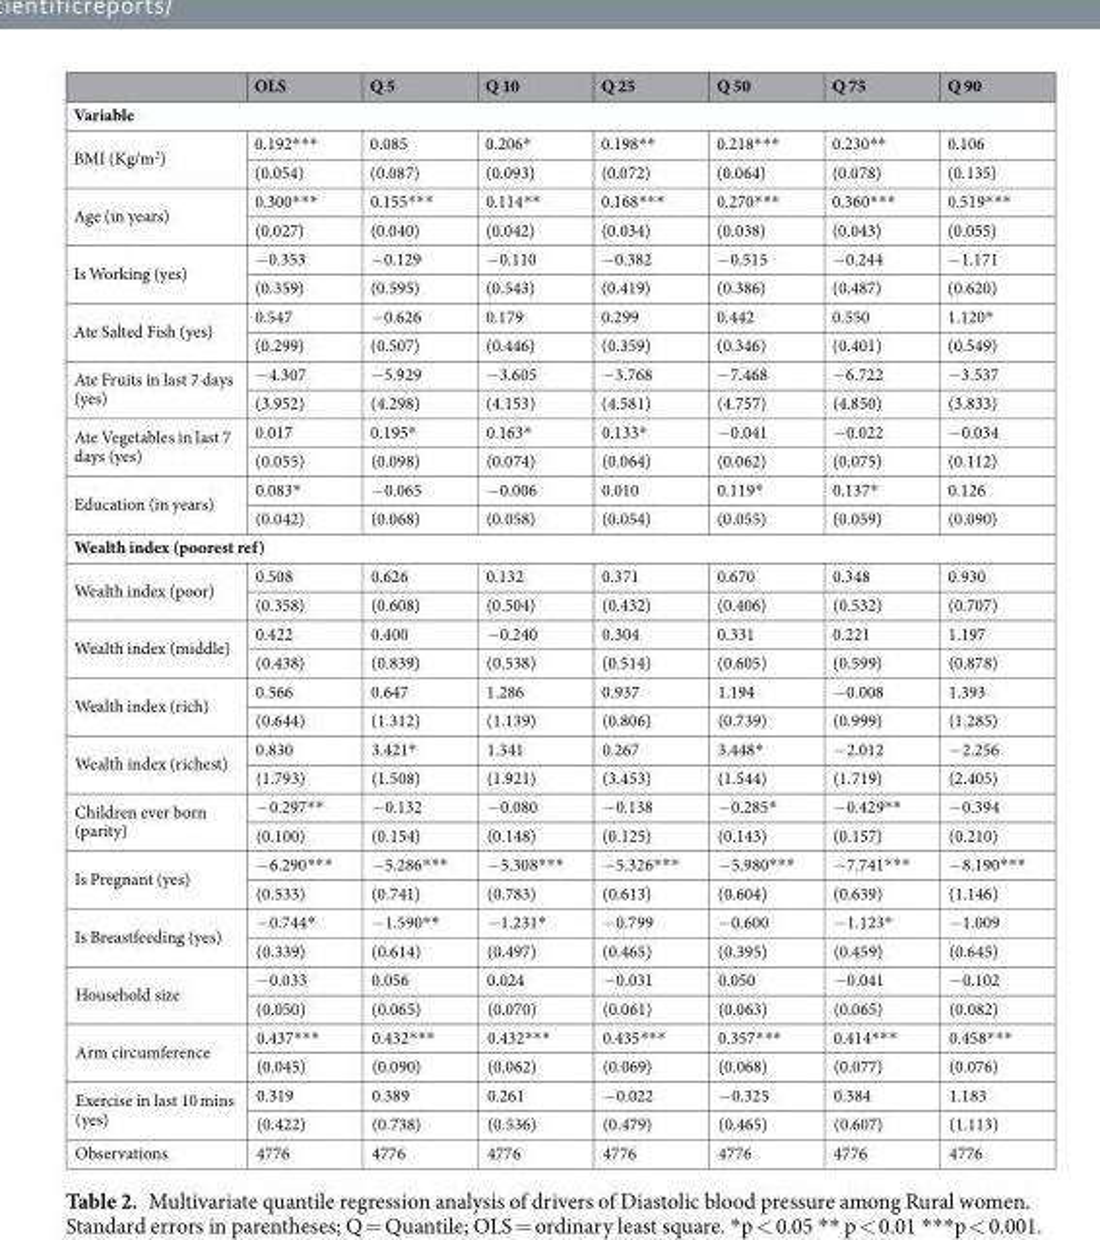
<table><thead><tr><td></td><td>OLS</td><td>Q 5</td><td>Q 10</td><td>Q 25</td><td>Q 50</td><td>Q 75</td><td>Q 90</td></tr></thead><tbody><tr><td colspan="8">Variable</td></tr><tr><td rowspan="2">BMI (Kg/m<sup>2</sup>)</td><td>0.192***</td><td>0.085</td><td>0.206*</td><td>0.198**</td><td>0.218***</td><td>0.230**</td><td>0.106</td></tr><tr><td>(0.054)</td><td>(0.087)</td><td>(0.093)</td><td>(0.072)</td><td>(0.064)</td><td>(0.078)</td><td>(0.135)</td></tr><tr><td rowspan="2">Age (in years)</td><td>0.300***</td><td>0.155***</td><td>0.114**</td><td>0.168***</td><td>0.270***</td><td>0.360***</td><td>0.519***</td></tr><tr><td>(0.027)</td><td>(0.040)</td><td>(0.042)</td><td>(0.034)</td><td>(0.038)</td><td>(0.043)</td><td>(0.055)</td></tr><tr><td rowspan="2">Is Working (yes)</td><td>−0.353</td><td>−0.129</td><td>−0.110</td><td>−0.382</td><td>−0.515</td><td>−0.244</td><td>−1.171</td></tr><tr><td>(0.359)</td><td>(0.595)</td><td>(0.543)</td><td>(0.419)</td><td>(0.386)</td><td>(0.487)</td><td>(0.620)</td></tr><tr><td rowspan="2">Ate Salted Fish (yes)</td><td>0.547</td><td>−0.626</td><td>0.179</td><td>0.299</td><td>0.442</td><td>0.550</td><td>1.120*</td></tr><tr><td>(0.299)</td><td>(0.507)</td><td>(0.446)</td><td>(0.359)</td><td>(0.346)</td><td>(0.401)</td><td>(0.549)</td></tr><tr><td rowspan="2">Ate Fruits in last 7 days (yes)</td><td>−4.307</td><td>−5.929</td><td>−3.605</td><td>−3.768</td><td>−7.468</td><td>−6.722</td><td>−3.537</td></tr><tr><td>(3.952)</td><td>(4.298)</td><td>(4.153)</td><td>(4.581)</td><td>(4.757)</td><td>(4.850)</td><td>(3.833)</td></tr><tr><td rowspan="2">Ate Vegetables in last 7 days (yes)</td><td>0.017</td><td>0.195*</td><td>0.163*</td><td>0.133*</td><td>−0.041</td><td>−0.022</td><td>−0.034</td></tr><tr><td>(0.055)</td><td>(0.098)</td><td>(0.074)</td><td>(0.064)</td><td>(0.062)</td><td>(0.075)</td><td>(0.112)</td></tr><tr><td rowspan="2">Education (in years)</td><td>0.083*</td><td>−0.065</td><td>−0.006</td><td>0.010</td><td>0.119*</td><td>0.137*</td><td>0.126</td></tr><tr><td>(0.042)</td><td>(0.068)</td><td>(0.058)</td><td>(0.054)</td><td>(0.055)</td><td>(0.059)</td><td>(0.090)</td></tr><tr><td colspan="8">Wealth index (poorest ref)</td></tr><tr><td rowspan="2">Wealth index (poor)</td><td>0.508</td><td>0.626</td><td>0.132</td><td>0.371</td><td>0.670</td><td>0.348</td><td>0.930</td></tr><tr><td>(0.358)</td><td>(0.608)</td><td>(0.504)</td><td>(0.432)</td><td>(0.406)</td><td>(0.532)</td><td>(0.707)</td></tr><tr><td rowspan="2">Wealth index (middle)</td><td>0.422</td><td>0.400</td><td>−0.240</td><td>0.304</td><td>0.331</td><td>0.221</td><td>1.197</td></tr><tr><td>(0.438)</td><td>(0.839)</td><td>(0.538)</td><td>(0.514)</td><td>(0.605)</td><td>(0.599)</td><td>(0.878)</td></tr><tr><td rowspan="2">Wealth index (rich)</td><td>0.566</td><td>0.647</td><td>1.286</td><td>0.937</td><td>1.194</td><td>−0.008</td><td>1.393</td></tr><tr><td>(0.644)</td><td>(1.312)</td><td>(1.139)</td><td>(0.806)</td><td>(0.739)</td><td>(0.999)</td><td>(1.285)</td></tr><tr><td rowspan="2">Wealth index (richest)</td><td>0.830</td><td>3.421*</td><td>1.341</td><td>0.267</td><td>3.448*</td><td>−2.012</td><td>−2.256</td></tr><tr><td>(1.793)</td><td>(1.508)</td><td>(1.921)</td><td>(3.453)</td><td>(1.544)</td><td>(1.719)</td><td>(2.405)</td></tr><tr><td rowspan="2">Children ever born (parity)</td><td>−0.297**</td><td>−0.132</td><td>−0.080</td><td>−0.138</td><td>−0.285*</td><td>−0.429**</td><td>−0.394</td></tr><tr><td>(0.100)</td><td>(0.154)</td><td>(0.148)</td><td>(0.125)</td><td>(0.143)</td><td>(0.157)</td><td>(0.210)</td></tr><tr><td rowspan="2">Is Pregnant (yes)</td><td>−6.290***</td><td>−5.286***</td><td>−5.308***</td><td>−5.326***</td><td>−5.980***</td><td>−7.741***</td><td>−8.190***</td></tr><tr><td>(0.533)</td><td>(0.741)</td><td>(0.783)</td><td>(0.613)</td><td>(0.604)</td><td>(0.639)</td><td>(1.146)</td></tr><tr><td rowspan="2">Is Breastfeeding (yes)</td><td>−0.744*</td><td>−1.590**</td><td>−1.231*</td><td>−0.799</td><td>−0.600</td><td>−1.123*</td><td>−1.009</td></tr><tr><td>(0.339)</td><td>(0.614)</td><td>(0.497)</td><td>(0.465)</td><td>(0.395)</td><td>(0.459)</td><td>(0.645)</td></tr><tr><td rowspan="2">Household size</td><td>−0.033</td><td>0.056</td><td>0.024</td><td>−0.031</td><td>0.050</td><td>−0.041</td><td>−0.102</td></tr><tr><td>(0.050)</td><td>(0.065)</td><td>(0.070)</td><td>(0.061)</td><td>(0.063)</td><td>(0.065)</td><td>(0.082)</td></tr><tr><td rowspan="2">Arm circumference</td><td>0.437***</td><td>0.432***</td><td>0.432***</td><td>0.435***</td><td>0.357***</td><td>0.414***</td><td>0.458***</td></tr><tr><td>(0.045)</td><td>(0.090)</td><td>(0.062)</td><td>(0.069)</td><td>(0.068)</td><td>(0.077)</td><td>(0.076)</td></tr><tr><td rowspan="2">Exercise in last 10 mins (yes)</td><td>0.319</td><td>0.389</td><td>0.261</td><td>−0.022</td><td>−0.325</td><td>0.384</td><td>1.183</td></tr><tr><td>(0.422)</td><td>(0.738)</td><td>(0.536)</td><td>(0.479)</td><td>(0.465)</td><td>(0.607)</td><td>(1.113)</td></tr><tr><td>Observations</td><td>4776</td><td>4776</td><td>4776</td><td>4776</td><td>4776</td><td>4776</td><td>4776</td></tr></tbody></table>